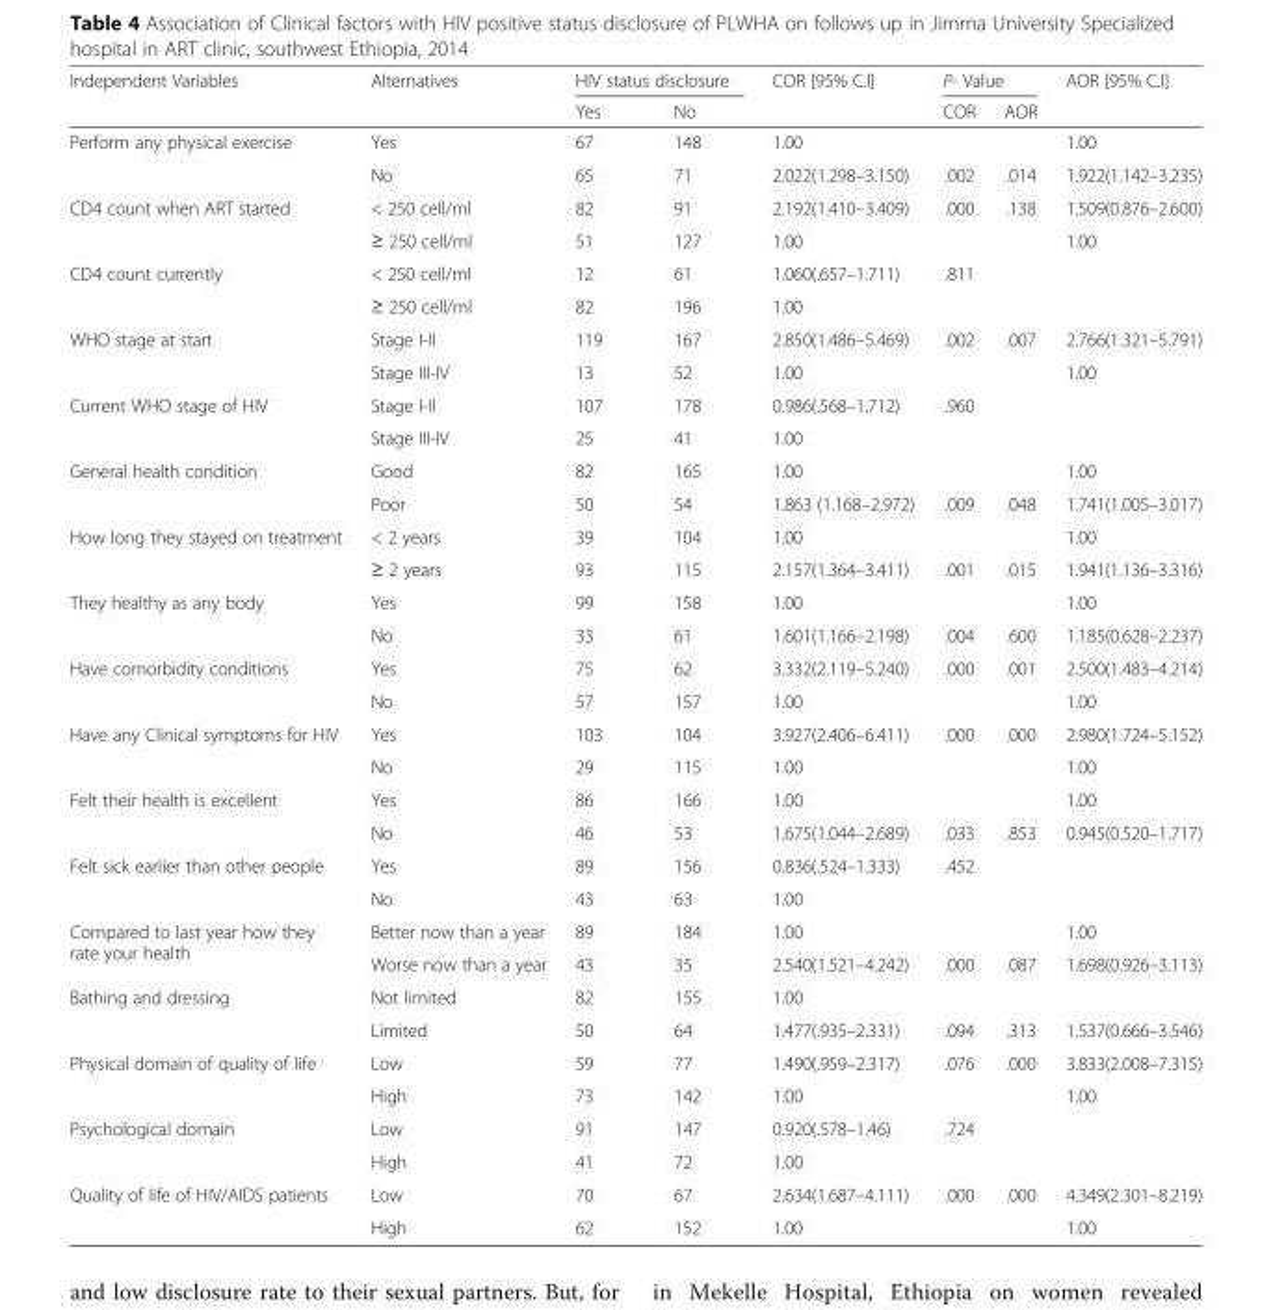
<table><thead><tr><td rowspan="2">Independent Variables</td><td rowspan="2">Alternatives</td><td colspan="2">HIV status disclosure</td><td rowspan="2">COR [95% C.I]</td><td colspan="2">P- Value</td><td rowspan="2">AOR [95% C.I]</td></tr><tr><td>Yes</td><td>No</td><td>COR</td><td>AOR</td></tr></thead><tbody><tr><td rowspan="2">Perform any physical exercise</td><td>Yes</td><td>67</td><td>148</td><td>1.00</td><td></td><td></td><td>1.00</td></tr><tr><td>No</td><td>65</td><td>71</td><td>2.022(1.298–3.150)</td><td>.002</td><td>.014</td><td>1.922(1.142–3.235)</td></tr><tr><td rowspan="2">CD4 count when ART started</td><td>&lt; 250 cell/ml</td><td>82</td><td>91</td><td>2.192(1.410–3.409)</td><td>.000</td><td>.138</td><td>1.509(0.876–2.600)</td></tr><tr><td>≥ 250 cell/ml</td><td>51</td><td>127</td><td>1.00</td><td></td><td></td><td>1.00</td></tr><tr><td rowspan="2">CD4 count currently</td><td>&lt; 250 cell/ml</td><td>12</td><td>61</td><td>1.060(.657–1.711)</td><td>.811</td><td></td><td></td></tr><tr><td>≥ 250 cell/ml</td><td>82</td><td>196</td><td>1.00</td><td></td><td></td><td></td></tr><tr><td rowspan="2">WHO stage at start</td><td>Stage I-II</td><td>119</td><td>167</td><td>2.850(1.486–5.469)</td><td>.002</td><td>.007</td><td>2.766(1.321–5.791)</td></tr><tr><td>Stage III-IV</td><td>13</td><td>52</td><td>1.00</td><td></td><td></td><td>1.00</td></tr><tr><td rowspan="2">Current WHO stage of HIV</td><td>Stage I-II</td><td>107</td><td>178</td><td>0.986(.568–1.712)</td><td>.960</td><td></td><td></td></tr><tr><td>Stage III-IV</td><td>25</td><td>41</td><td>1.00</td><td></td><td></td><td></td></tr><tr><td rowspan="2">General health condition</td><td>Good</td><td>82</td><td>165</td><td>1.00</td><td></td><td></td><td>1.00</td></tr><tr><td>Poor</td><td>50</td><td>54</td><td>1.863 (1.168–2.972)</td><td>.009</td><td>.048</td><td>1.741(1.005–3.017)</td></tr><tr><td rowspan="2">How long they stayed on treatment</td><td>&lt; 2 years</td><td>39</td><td>104</td><td>1.00</td><td></td><td></td><td>1.00</td></tr><tr><td>≥ 2 years</td><td>93</td><td>115</td><td>2.157(1.364–3.411)</td><td>.001</td><td>.015</td><td>1.941(1.136–3.316)</td></tr><tr><td rowspan="2">They healthy as any body</td><td>Yes</td><td>99</td><td>158</td><td>1.00</td><td></td><td></td><td>1.00</td></tr><tr><td>No</td><td>33</td><td>61</td><td>1.601(1.166–2.198)</td><td>.004</td><td>.600</td><td>1.185(0.628–2.237)</td></tr><tr><td rowspan="2">Have comorbidity conditions</td><td>Yes</td><td>75</td><td>62</td><td>3.332(2.119–5.240)</td><td>.000</td><td>.001</td><td>2.500(1.483–4.214)</td></tr><tr><td>No</td><td>57</td><td>157</td><td>1.00</td><td></td><td></td><td>1.00</td></tr><tr><td rowspan="2">Have any Clinical symptoms for HIV</td><td>Yes</td><td>103</td><td>104</td><td>3.927(2.406–6.411)</td><td>.000</td><td>.000</td><td>2.980(1.724–5.152)</td></tr><tr><td>No</td><td>29</td><td>115</td><td>1.00</td><td></td><td></td><td>1.00</td></tr><tr><td rowspan="2">Felt their health is excellent</td><td>Yes</td><td>86</td><td>166</td><td>1.00</td><td></td><td></td><td>1.00</td></tr><tr><td>No</td><td>46</td><td>53</td><td>1.675(1.044–2.689)</td><td>.033</td><td>.853</td><td>0.945(0.520–1.717)</td></tr><tr><td rowspan="2">Felt sick earlier than other people</td><td>Yes</td><td>89</td><td>156</td><td>0.836(.524–1.333)</td><td>.452</td><td></td><td></td></tr><tr><td>No</td><td>43</td><td>63</td><td>1.00</td><td></td><td></td><td></td></tr><tr><td rowspan="2">Compared to last year how they rate your health</td><td>Better now than a year</td><td>89</td><td>184</td><td>1.00</td><td></td><td></td><td>1.00</td></tr><tr><td>Worse now than a year</td><td>43</td><td>35</td><td>2.540(1.521–4.242)</td><td>.000</td><td>.087</td><td>1.698(0.926–3.113)</td></tr><tr><td rowspan="2">Bathing and dressing</td><td>Not limited</td><td>82</td><td>155</td><td>1.00</td><td></td><td></td><td></td></tr><tr><td>Limited</td><td>50</td><td>64</td><td>1.477(.935–2.331)</td><td>.094</td><td>.313</td><td>1.537(0.666–3.546)</td></tr><tr><td rowspan="2">Physical domain of quality of life</td><td>Low</td><td>59</td><td>77</td><td>1.490(.959–2.317)</td><td>.076</td><td>.000</td><td>3.833(2.008–7.315)</td></tr><tr><td>High</td><td>73</td><td>142</td><td>1.00</td><td></td><td></td><td>1.00</td></tr><tr><td rowspan="2">Psychological domain</td><td>Low</td><td>91</td><td>147</td><td>0.920(.578–1.46)</td><td>.724</td><td></td><td></td></tr><tr><td>High</td><td>41</td><td>72</td><td>1.00</td><td></td><td></td><td></td></tr><tr><td rowspan="2">Quality of life of HIV/AIDS patients</td><td>Low</td><td>70</td><td>67</td><td>2.634(1.687–4.111)</td><td>.000</td><td>.000</td><td>4.349(2.301–8.219)</td></tr><tr><td>High</td><td>62</td><td>152</td><td>1.00</td><td></td><td></td><td>1.00</td></tr></tbody></table>